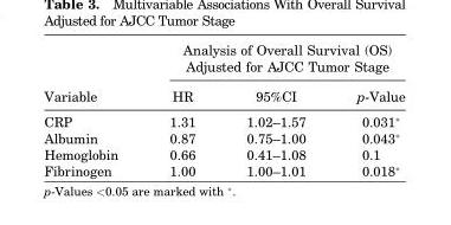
<table><thead><tr><td rowspan="2">Variable</td><td colspan="3">Analysis of Overall Survival (OS) Adjusted for AJCC Tumor Stage</td></tr><tr><td>HR</td><td>95%CI</td><td>p-Value</td></tr></thead><tbody><tr><td>CRP</td><td>1.31</td><td>1.02–1.57</td><td>0.031*</td></tr><tr><td>Albumin</td><td>0.87</td><td>0.75–1.00</td><td>0.043*</td></tr><tr><td>Hemoglobin</td><td>0.66</td><td>0.41–1.08</td><td>0.1</td></tr><tr><td>Fibrinogen</td><td>1.00</td><td>1.00–1.01</td><td>0.018*</td></tr></tbody></table>